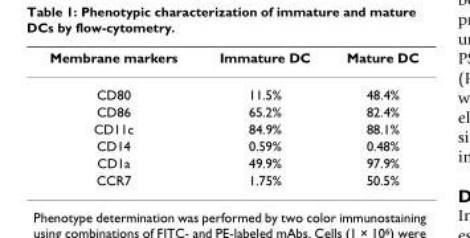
<table><thead><tr><td>Membrane markers</td><td>Immature DC</td><td>Mature DC</td></tr></thead><tbody><tr><td>CD80</td><td>11.5%</td><td>48.4%</td></tr><tr><td>CD86</td><td>65.2%</td><td>82.4%</td></tr><tr><td>CD11c</td><td>84.9%</td><td>88.1%</td></tr><tr><td>CD14</td><td>0.59%</td><td>0.48%</td></tr><tr><td>CD1a</td><td>49.9%</td><td>97.9%</td></tr><tr><td>CCR7</td><td>1.75%</td><td>50.5%</td></tr></tbody></table>